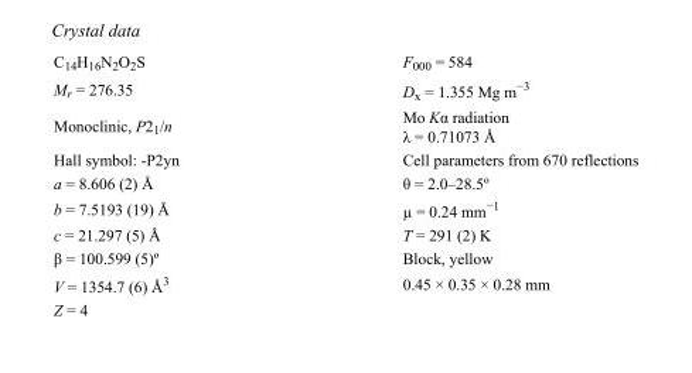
<table><tbody><tr><td>C<sub>14</sub>H<sub>16</sub>N<sub>2</sub>O<sub>2</sub>S</td><td>F<sub>000</sub> = 584</td></tr><tr><td>M<sub>r</sub> = 276.35</td><td>D<sub>x</sub> = 1.355 Mg m<sup>−3</sup></td></tr><tr><td>Monoclinic, P2<sub>1</sub>/n</td><td>Mo Kα radiation λ = 0.71073 Å</td></tr><tr><td>Hall symbol: -P2yn</td><td>Cell parameters from 670 reflections</td></tr><tr><td>a = 8.606 (2) Å</td><td>θ = 2.0–28.5º</td></tr><tr><td>b = 7.5193 (19) Å</td><td>µ = 0.24 mm<sup>−1</sup></td></tr><tr><td>c = 21.297 (5) Å</td><td>T = 291 (2) K</td></tr><tr><td>β = 100.599 (5)º</td><td>Block, yellow</td></tr><tr><td>V = 1354.7 (6) Å<sup>3</sup></td><td>0.45 × 0.35 × 0.28 mm</td></tr><tr><td>Z = 4</td><td></td></tr></tbody></table>